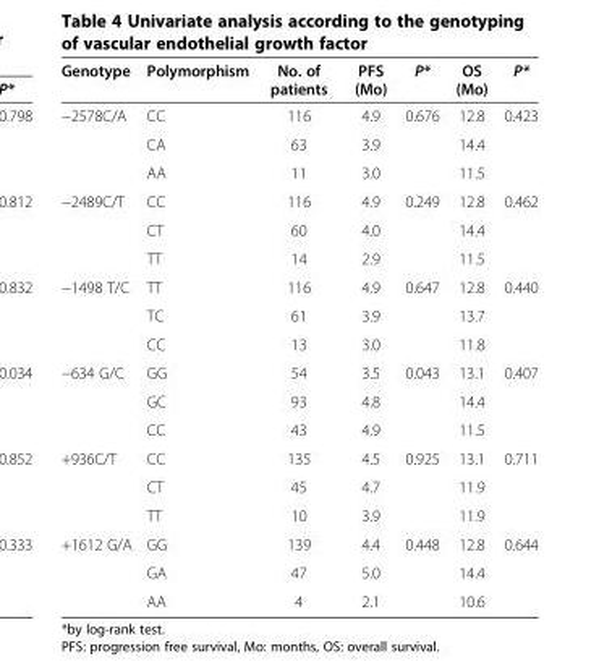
<table><thead><tr><td>Genotype</td><td>Polymorphism</td><td>No. of patients</td><td>PFS (Mo)</td><td>P*</td><td>OS (Mo)</td><td>P*</td></tr></thead><tbody><tr><td rowspan="3">−2578C/A</td><td>CC</td><td>116</td><td>4.9</td><td>0.676</td><td>12.8</td><td>0.423</td></tr><tr><td>CA</td><td>63</td><td>3.9</td><td></td><td>14.4</td><td></td></tr><tr><td>AA</td><td>11</td><td>3.0</td><td></td><td>11.5</td><td></td></tr><tr><td rowspan="3">−2489C/T</td><td>CC</td><td>116</td><td>4.9</td><td>0.249</td><td>12.8</td><td>0.462</td></tr><tr><td>CT</td><td>60</td><td>4.0</td><td></td><td>14.4</td><td></td></tr><tr><td>TT</td><td>14</td><td>2.9</td><td></td><td>11.5</td><td></td></tr><tr><td rowspan="3">−1498 T/C</td><td>TT</td><td>116</td><td>4.9</td><td>0.647</td><td>12.8</td><td>0.440</td></tr><tr><td>TC</td><td>61</td><td>3.9</td><td></td><td>13.7</td><td></td></tr><tr><td>CC</td><td>13</td><td>3.0</td><td></td><td>11.8</td><td></td></tr><tr><td rowspan="3">−634 G/C</td><td>GG</td><td>54</td><td>3.5</td><td>0.043</td><td>13.1</td><td>0.407</td></tr><tr><td>GC</td><td>93</td><td>4.8</td><td></td><td>14.4</td><td></td></tr><tr><td>CC</td><td>43</td><td>4.9</td><td></td><td>11.5</td><td></td></tr><tr><td rowspan="3">+936C/T</td><td>CC</td><td>135</td><td>4.5</td><td>0.925</td><td>13.1</td><td>0.711</td></tr><tr><td>CT</td><td>45</td><td>4.7</td><td></td><td>11.9</td><td></td></tr><tr><td>TT</td><td>10</td><td>3.9</td><td></td><td>11.9</td><td></td></tr><tr><td rowspan="3">+1612 G/A</td><td>GG</td><td>139</td><td>4.4</td><td>0.448</td><td>12.8</td><td>0.644</td></tr><tr><td>GA</td><td>47</td><td>5.0</td><td></td><td>14.4</td><td></td></tr><tr><td>AA</td><td>4</td><td>2.1</td><td></td><td>10.6</td><td></td></tr></tbody></table>